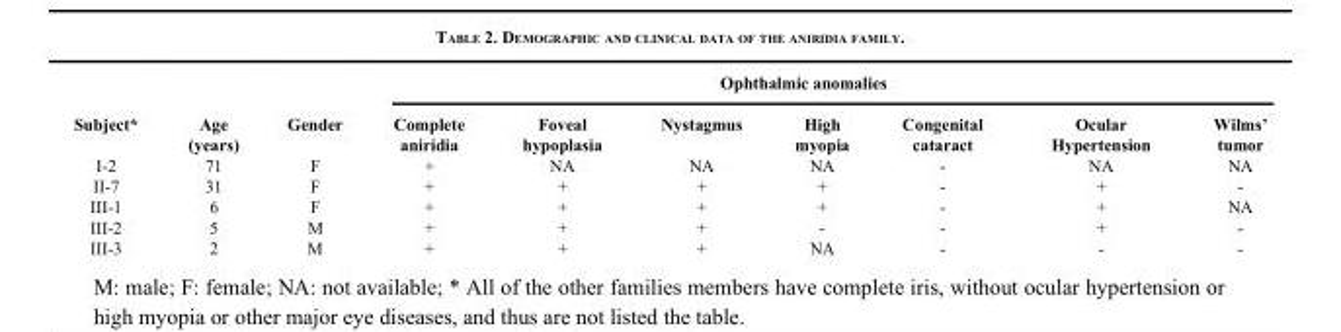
<table><thead><tr><td rowspan="2">Subject*</td><td rowspan="2">Age (years)</td><td rowspan="2">Gender</td><td colspan="6">Ophthalmic anomalies</td><td rowspan="2">Wilms’ tumor</td></tr><tr><td>Complete aniridia</td><td>Foveal hypoplasia</td><td>Nystagmus</td><td>High myopia</td><td>Congenital cataract</td><td>Ocular Hypertension</td></tr></thead><tbody><tr><td>I-2</td><td>71</td><td>F</td><td>+</td><td>NA</td><td>NA</td><td>NA</td><td>-</td><td>NA</td><td>NA</td></tr><tr><td>II-7</td><td>31</td><td>F</td><td>+</td><td>+</td><td>+</td><td>+</td><td>-</td><td>+</td><td>-</td></tr><tr><td>III-1</td><td>6</td><td>F</td><td>+</td><td>+</td><td>+</td><td>+</td><td>-</td><td>+</td><td>NA</td></tr><tr><td>III-2</td><td>5</td><td>M</td><td>+</td><td>+</td><td>+</td><td>-</td><td>-</td><td>+</td><td>-</td></tr><tr><td>III-3</td><td>2</td><td>M</td><td>+</td><td>+</td><td>+</td><td>NA</td><td>-</td><td>-</td><td>-</td></tr></tbody></table>